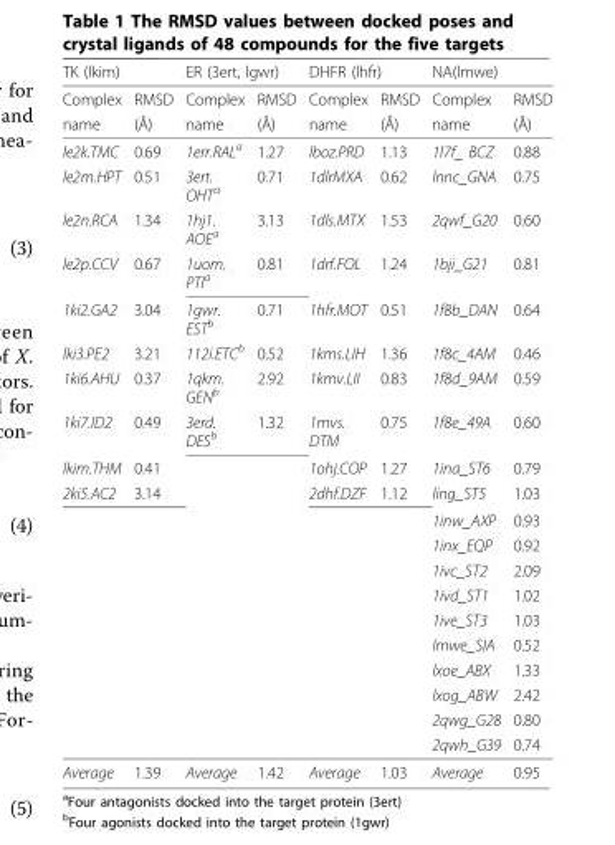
<table><thead><tr><td colspan="2">TK (lkim)</td><td colspan="2">ER (3ert, lgwr)</td><td colspan="2">DHFR (lhfr)</td><td colspan="2">NA(lmwe)</td></tr><tr><td>Complex</td><td>RMSD</td><td>Complex</td><td>RMSD</td><td>Complex</td><td>RMSD</td><td>Complex</td><td>RMSD</td></tr></thead><tbody><tr><td>name</td><td>(Å)</td><td>name</td><td>(Å)</td><td>name</td><td>(Å)</td><td>name</td><td>(Å)</td></tr><tr><td>le2k.TMC</td><td>0.69</td><td>1err.RAL<sup>a</sup></td><td>1.27</td><td>lboz.PRD</td><td>1.13</td><td>1l7f_ BCZ</td><td>0.88</td></tr><tr><td>le2m.HPT</td><td>0.51</td><td>3ert. OHT<sup>a</sup></td><td>0.71</td><td>1dlrMXA</td><td>0.62</td><td>lnnc_GNA</td><td>0.75</td></tr><tr><td>le2n.RCA</td><td>1.34</td><td>1hj1. AOE<sup>a</sup></td><td>3.13</td><td>1dls.MTX</td><td>1.53</td><td>2qwf_G20</td><td>0.60</td></tr><tr><td>le2p.CCV</td><td>0.67</td><td>1uom. PTI<sup>a</sup></td><td>0.81</td><td>1drf.FOL</td><td>1.24</td><td>1bji_G21</td><td>0.81</td></tr><tr><td>1ki2.GA2</td><td>3.04</td><td>1gwr. EST<sup>b</sup></td><td>0.71</td><td>1hfr.MOT</td><td>0.51</td><td>1f8b_DAN</td><td>0.64</td></tr><tr><td>lki3.PE2</td><td>3.21</td><td>112i.ETC<sup>b</sup></td><td>0.52</td><td>1kms.LIH</td><td>1.36</td><td>1f8c_4AM</td><td>0.46</td></tr><tr><td>1ki6.AHU</td><td>0.37</td><td>1qkm. GEN<sup>b</sup></td><td>2.92</td><td>1kmv.LII</td><td>0.83</td><td>1f8d_9AM</td><td>0.59</td></tr><tr><td>1ki7.ID2</td><td>0.49</td><td>3erd. DES<sup>b</sup></td><td>1.32</td><td>1mvs. DTM</td><td>0.75</td><td>1f8e_49A</td><td>0.60</td></tr><tr><td>lkim.THM</td><td>0.41</td><td></td><td></td><td>1ohj.COP</td><td>1.27</td><td>1ina_ST6</td><td>0.79</td></tr><tr><td rowspan="11">2ki5.AC2</td><td>3.14</td><td></td><td></td><td>2dhf.DZF</td><td>1.12</td><td>ling_ST5</td><td>1.03</td></tr><tr><td></td><td></td><td></td><td></td><td></td><td>1inw_AXP</td><td>0.93</td></tr><tr><td></td><td></td><td></td><td></td><td></td><td>1inx_EQP</td><td>0.92</td></tr><tr><td></td><td></td><td></td><td></td><td></td><td>1ivc_ST2</td><td>2.09</td></tr><tr><td></td><td></td><td></td><td></td><td></td><td>1ivd_ST1</td><td>1.02</td></tr><tr><td></td><td></td><td></td><td></td><td></td><td>1ive_ST3</td><td>1.03</td></tr><tr><td></td><td></td><td></td><td></td><td></td><td>Imwe_SIA</td><td>0.52</td></tr><tr><td></td><td></td><td></td><td></td><td></td><td>lxoe_ABX</td><td>1.33</td></tr><tr><td></td><td></td><td></td><td></td><td></td><td>lxog_ABW</td><td>2.42</td></tr><tr><td></td><td></td><td></td><td></td><td></td><td>2qwg_G28</td><td>0.80</td></tr><tr><td></td><td></td><td></td><td></td><td></td><td>2qwh_G39</td><td>0.74</td></tr><tr><td>Average</td><td>1.39</td><td>Average</td><td>1.42</td><td>Average</td><td>1.03</td><td>Average</td><td>0.95</td></tr></tbody></table>